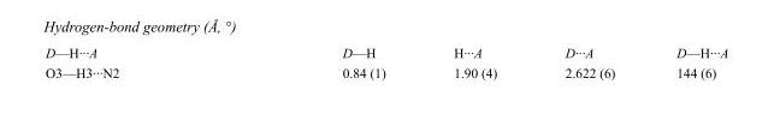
<table><tbody><tr><td>D—H···A</td><td>D—H</td><td>H···A</td><td>D···A</td><td>D—H···A</td></tr><tr><td>O3—H3···N2</td><td>0.84 (1)</td><td>1.90 (4)</td><td>2.622 (6)</td><td>144 (6)</td></tr></tbody></table>